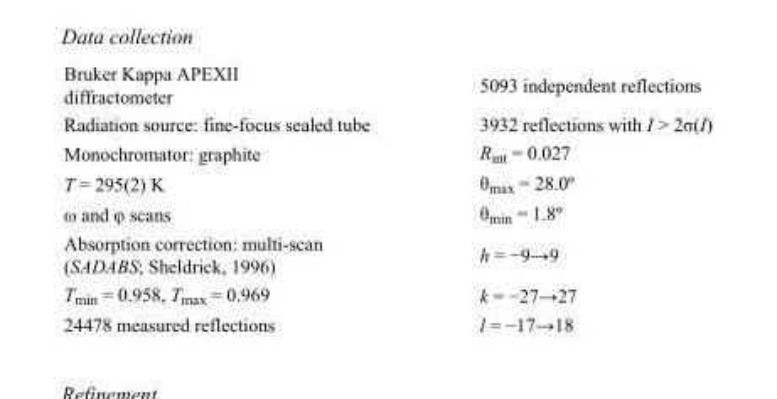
<table><tbody><tr><td>Bruker Kappa APEXII diffractometer</td><td>5093 independent reflections</td></tr><tr><td>Radiation source: fine-focus sealed tube</td><td>3932 reflections with I &gt; 2σ(I)</td></tr><tr><td>Monochromator: graphite</td><td>R<sub>int</sub> = 0.027</td></tr><tr><td>T = 295(2) K</td><td>θ<sub>max</sub> = 28.0º</td></tr><tr><td>ω and φ scans</td><td>θ<sub>min</sub> = 1.8º</td></tr><tr><td>Absorption correction: multi-scan (SADABS; Sheldrick, 1996)</td><td>h = −9→9</td></tr><tr><td>T<sub>min</sub> = 0.958, T<sub>max</sub> = 0.969</td><td>k = −27→27</td></tr><tr><td>24478 measured reflections</td><td>l = −17→18</td></tr></tbody></table>